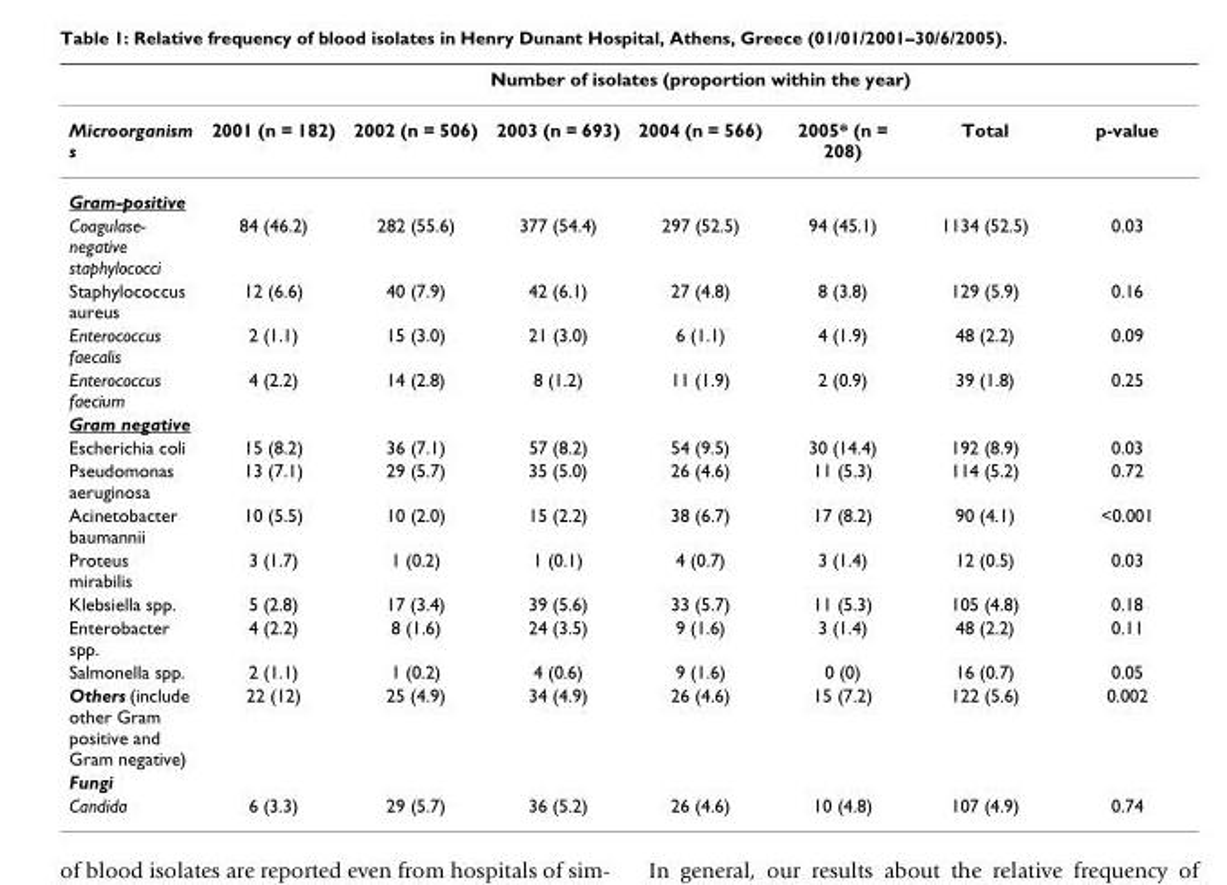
<table><thead><tr><td rowspan="2">Microorganism s</td><td colspan="7">Number of isolates (proportion within the year)</td></tr><tr><td>2001 (n = 182)</td><td>2002 (n = 506)</td><td>2003 (n = 693)</td><td>2004 (n = 566)</td><td>2005* (n = 208)</td><td>Total</td><td>p-value</td></tr></thead><tbody><tr><td colspan="8">Gram-positive</td></tr><tr><td>Coagulase- negative staphylococci</td><td>84 (46.2)</td><td>282 (55.6)</td><td>377 (54.4)</td><td>297 (52.5)</td><td>94 (45.1)</td><td>1134 (52.5)</td><td>0.03</td></tr><tr><td>Staphylococcus aureus</td><td>12 (6.6)</td><td>40 (7.9)</td><td>42 (6.1)</td><td>27 (4.8)</td><td>8 (3.8)</td><td>129 (5.9)</td><td>0.16</td></tr><tr><td>Enterococcus faecalis</td><td>2 (1.1)</td><td>15 (3.0)</td><td>21 (3.0)</td><td>6 (1.1)</td><td>4 (1.9)</td><td>48 (2.2)</td><td>0.09</td></tr><tr><td>Enterococcus faecium</td><td>4 (2.2)</td><td>14 (2.8)</td><td>8 (1.2)</td><td>11 (1.9)</td><td>2 (0.9)</td><td>39 (1.8)</td><td>0.25</td></tr><tr><td colspan="8">Gram negative</td></tr><tr><td>Escherichia coli</td><td>15 (8.2)</td><td>36 (7.1)</td><td>57 (8.2)</td><td>54 (9.5)</td><td>30 (14.4)</td><td>192 (8.9)</td><td>0.03</td></tr><tr><td>Pseudomonas aeruginosa</td><td>13 (7.1)</td><td>29 (5.7)</td><td>35 (5.0)</td><td>26 (4.6)</td><td>11 (5.3)</td><td>114 (5.2)</td><td>0.72</td></tr><tr><td>Acinetobacter baumannii</td><td>10 (5.5)</td><td>10 (2.0)</td><td>15 (2.2)</td><td>38 (6.7)</td><td>17 (8.2)</td><td>90 (4.1)</td><td>&lt;0.001</td></tr><tr><td>Proteus mirabilis</td><td>3 (1.7)</td><td>1 (0.2)</td><td>1 (0.1)</td><td>4 (0.7)</td><td>3 (1.4)</td><td>12 (0.5)</td><td>0.03</td></tr><tr><td>Klebsiella spp.</td><td>5 (2.8)</td><td>17 (3.4)</td><td>39 (5.6)</td><td>33 (5.7)</td><td>11 (5.3)</td><td>105 (4.8)</td><td>0.18</td></tr><tr><td>Enterobacter spp.</td><td>4 (2.2)</td><td>8 (1.6)</td><td>24 (3.5)</td><td>9 (1.6)</td><td>3 (1.4)</td><td>48 (2.2)</td><td>0.11</td></tr><tr><td>Salmonella spp.</td><td>2 (1.1)</td><td>1 (0.2)</td><td>4 (0.6)</td><td>9 (1.6)</td><td>0 (0)</td><td>16 (0.7)</td><td>0.05</td></tr><tr><td>Others (include other Gram positive and Gram negative)</td><td>22 (12)</td><td>25 (4.9)</td><td>34 (4.9)</td><td>26 (4.6)</td><td>15 (7.2)</td><td>122 (5.6)</td><td>0.002</td></tr><tr><td colspan="8">Fungi</td></tr><tr><td>Candida</td><td>6 (3.3)</td><td>29 (5.7)</td><td>36 (5.2)</td><td>26 (4.6)</td><td>10 (4.8)</td><td>107 (4.9)</td><td>0.74</td></tr></tbody></table>